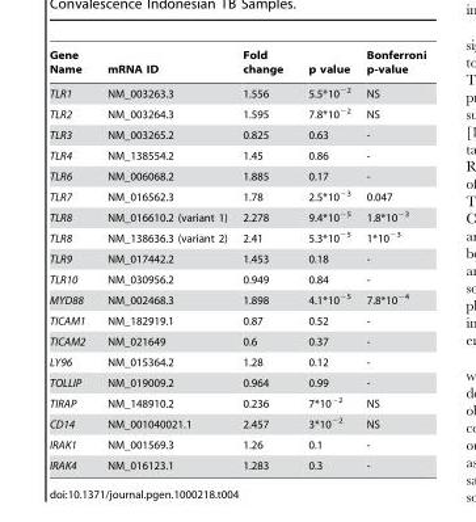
<table><thead><tr><td>Gene Name</td><td>mRNA ID</td><td>Fold change</td><td>p value</td><td>Bonferroni p-value</td></tr></thead><tbody><tr><td>TLR1</td><td>NM_003263.3</td><td>1.556</td><td>5.5*10<sup>−2</sup></td><td>NS</td></tr><tr><td>TLR2</td><td>NM_003264.3</td><td>1.595</td><td>7.8*10<sup>−2</sup></td><td>NS</td></tr><tr><td>TLR3</td><td>NM_003265.2</td><td>0.825</td><td>0.63</td><td>-</td></tr><tr><td>TLR4</td><td>NM_138554.2</td><td>1.45</td><td>0.86</td><td>-</td></tr><tr><td>TLR6</td><td>NM_006068.2</td><td>1.885</td><td>0.17</td><td>-</td></tr><tr><td>TLR7</td><td>NM_016562.3</td><td>1.78</td><td>2.5*10<sup>−3</sup></td><td>0.047</td></tr><tr><td>TLR8</td><td>NM_016610.2 (variant 1)</td><td>2.278</td><td>9.4*10<sup>−5</sup></td><td>1.8*10<sup>−3</sup></td></tr><tr><td>TLR8</td><td>NM_138636.3 (variant 2)</td><td>2.41</td><td>5.3*10<sup>−5</sup></td><td>1*10<sup>−3</sup></td></tr><tr><td>TLR9</td><td>NM_017442.2</td><td>1.453</td><td>0.18</td><td>-</td></tr><tr><td>TLR10</td><td>NM_030956.2</td><td>0.949</td><td>0.84</td><td>-</td></tr><tr><td>MYD88</td><td>NM_002468.3</td><td>1.898</td><td>4.1*10<sup>−5</sup></td><td>7.8*10<sup>−4</sup></td></tr><tr><td>TICAM1</td><td>NM_182919.1</td><td>0.87</td><td>0.52</td><td>-</td></tr><tr><td>TICAM2</td><td>NM_021649</td><td>0.6</td><td>0.37</td><td>-</td></tr><tr><td>LY96</td><td>NM_015364.2</td><td>1.28</td><td>0.12</td><td>-</td></tr><tr><td>TOLLIP</td><td>NM_019009.2</td><td>0.964</td><td>0.99</td><td>-</td></tr><tr><td>TIRAP</td><td>NM_148910.2</td><td>0.236</td><td>7*10<sup>−2</sup></td><td>NS</td></tr><tr><td>CD14</td><td>NM_001040021.1</td><td>2.457</td><td>3*10<sup>−2</sup></td><td>NS</td></tr><tr><td>IRAK1</td><td>NM_001569.3</td><td>1.26</td><td>0.1</td><td>-</td></tr><tr><td>IRAK4</td><td>NM_016123.1</td><td>1.283</td><td>0.3</td><td>-</td></tr></tbody></table>